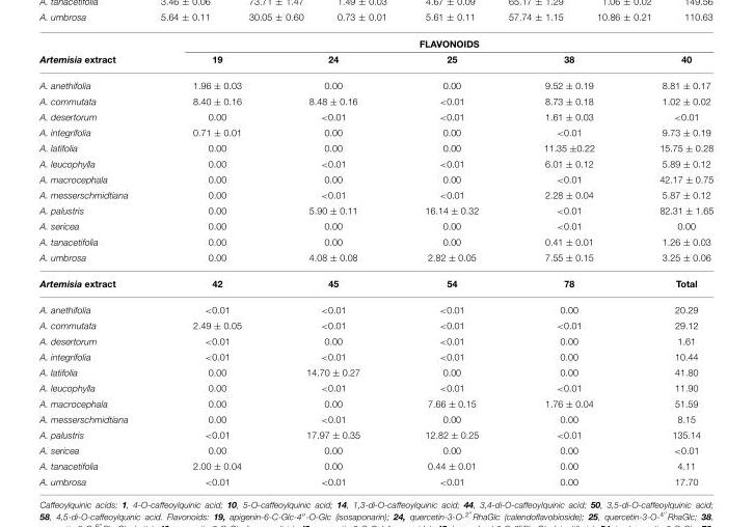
<table><thead><tr><td rowspan="2">Artemisia extract</td><td colspan="5">FLAVONOIDS</td></tr><tr><td>19</td><td>24</td><td>25</td><td>38</td><td>40</td></tr></thead><tbody><tr><td>A. anethifolia</td><td>1.96 ± 0.03</td><td>0.00</td><td>0.00</td><td>9.52 ± 0.19</td><td>8.81 ± 0.17</td></tr><tr><td>A. commutata</td><td>8.40 ± 0.16</td><td>8.48 ± 0.16</td><td>&lt;0.01</td><td>8.73 ± 0.18</td><td>1.02 ± 0.02</td></tr><tr><td>A. desertorum</td><td>0.00</td><td>&lt;0.01</td><td>&lt;0.01</td><td>1.61 ± 0.03</td><td>&lt;0.01</td></tr><tr><td>A. integrifolia</td><td>0.71 ± 0.01</td><td>0.00</td><td>0.00</td><td>&lt;0.01</td><td>9.73 ± 0.19</td></tr><tr><td>A. latifolia</td><td>0.00</td><td>0.00</td><td>0.00</td><td>11.35 ±0.22</td><td>15.75 ± 0.28</td></tr><tr><td>A. leucophylla</td><td>0.00</td><td>&lt;0.01</td><td>&lt;0.01</td><td>6.01 ± 0.12</td><td>5.89 ± 0.12</td></tr><tr><td>A. macrocephala</td><td>0.00</td><td>0.00</td><td>0.00</td><td>&lt;0.01</td><td>42.17 ± 0.75</td></tr><tr><td>A. messerschmidtiana</td><td>0.00</td><td>&lt;0.01</td><td>&lt;0.01</td><td>2.28 ± 0.04</td><td>5.87 ± 0.12</td></tr><tr><td>A. palustris</td><td>0.00</td><td>5.90 ± 0.11</td><td>16.14 ± 0.32</td><td>&lt;0.01</td><td>82.31 ± 1.65</td></tr><tr><td>A. sericea</td><td>0.00</td><td>0.00</td><td>0.00</td><td>&lt;0.01</td><td>0.00</td></tr><tr><td>A. tanacetifolia</td><td>0.00</td><td>0.00</td><td>0.00</td><td>0.41 ± 0.01</td><td>1.26 ± 0.03</td></tr><tr><td>A. umbrosa</td><td>0.00</td><td>4.08 ± 0.08</td><td>2.82 ± 0.05</td><td>7.55 ± 0.15</td><td>3.25 ± 0.06</td></tr><tr><td>Artemisia extract</td><td>42</td><td>45</td><td>54</td><td>78</td><td>Total</td></tr><tr><td>A. anethifolia</td><td>&lt;0.01</td><td>&lt;0.01</td><td>&lt;0.01</td><td>0.00</td><td>20.29</td></tr><tr><td>A. commutata</td><td>2.49 ± 0.05</td><td>&lt;0.01</td><td>&lt;0.01</td><td>&lt;0.01</td><td>29.12</td></tr><tr><td>A. desertorum</td><td>&lt;0.01</td><td>0.00</td><td>&lt;0.01</td><td>0.00</td><td>1.61</td></tr><tr><td>A. integrifolia</td><td>&lt;0.01</td><td>&lt;0.01</td><td>&lt;0.01</td><td>0.00</td><td>10.44</td></tr><tr><td>A. latifolia</td><td>0.00</td><td>14.70 ± 0.27</td><td>0.00</td><td>0.00</td><td>41.80</td></tr><tr><td>A. leucophylla</td><td>0.00</td><td>&lt;0.01</td><td>&lt;0.01</td><td>&lt;0.01</td><td>11.90</td></tr><tr><td>A. macrocephala</td><td>0.00</td><td>0.00</td><td>7.66 ± 0.15</td><td>1.76 ± 0.04</td><td>51.59</td></tr><tr><td>A. messerschmidtiana</td><td>0.00</td><td>&lt;0.01</td><td>0.00</td><td>0.00</td><td>8.15</td></tr><tr><td>A. palustris</td><td>&lt;0.01</td><td>17.97 ± 0.35</td><td>12.82 ± 0.25</td><td>&lt;0.01</td><td>135.14</td></tr><tr><td>A. sericea</td><td>0.00</td><td>0.00</td><td>0.00</td><td>0.00</td><td>&lt;0.01</td></tr><tr><td>A. tanacetifolia</td><td>2.00 ± 0.04</td><td>0.00</td><td>0.44 ± 0.01</td><td>0.00</td><td>4.11</td></tr><tr><td>A. umbrosa</td><td>&lt;0.01</td><td>&lt;0.01</td><td>&lt;0.01</td><td>0.00</td><td>17.70</td></tr></tbody></table>